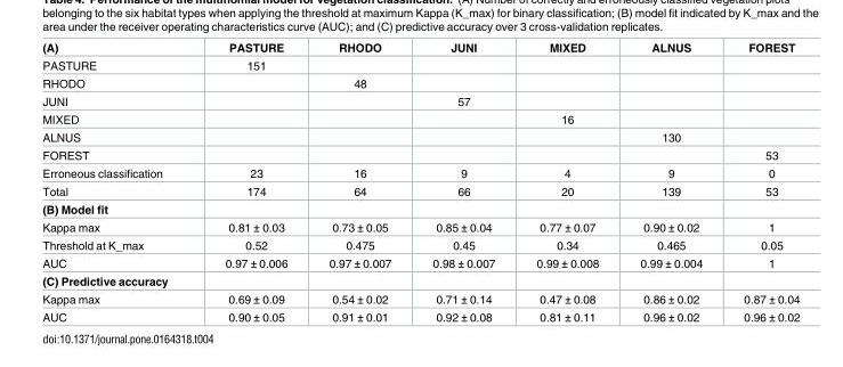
<table><tbody><tr><td>(A)</td><td>PASTURE</td><td>RHODO</td><td>JUNI</td><td>MIXED</td><td>ALNUS</td><td>FOREST</td></tr><tr><td>PASTURE</td><td>151</td><td></td><td></td><td></td><td></td><td></td></tr><tr><td>RHODO</td><td></td><td>48</td><td></td><td></td><td></td><td></td></tr><tr><td>JUNI</td><td></td><td></td><td>57</td><td></td><td></td><td></td></tr><tr><td>MIXED</td><td></td><td></td><td></td><td>16</td><td></td><td></td></tr><tr><td>ALNUS</td><td></td><td></td><td></td><td></td><td>130</td><td></td></tr><tr><td>FOREST</td><td></td><td></td><td></td><td></td><td></td><td>53</td></tr><tr><td>Erroneous classification</td><td>23</td><td>16</td><td>9</td><td>4</td><td>9</td><td>0</td></tr><tr><td>Total</td><td>174</td><td>64</td><td>66</td><td>20</td><td>139</td><td>53</td></tr><tr><td colspan="7">(B) Model fit</td></tr><tr><td>Kappa max</td><td>0.81 ± 0.03</td><td>0.73 ± 0.05</td><td>0.85 ± 0.04</td><td>0.77 ± 0.07</td><td>0.90 ± 0.02</td><td>1</td></tr><tr><td>Threshold at K_max</td><td>0.52</td><td>0.475</td><td>0.45</td><td>0.34</td><td>0.465</td><td>0.05</td></tr><tr><td>AUC</td><td>0.97 ± 0.006</td><td>0.97 ± 0.007</td><td>0.98 ± 0.007</td><td>0.99 ± 0.008</td><td>0.99 ± 0.004</td><td>1</td></tr><tr><td colspan="7">(C) Predictive accuracy</td></tr><tr><td>Kappa max</td><td>0.69 ± 0.09</td><td>0.54 ± 0.02</td><td>0.71 ± 0.14</td><td>0.47 ± 0.08</td><td>0.86 ± 0.02</td><td>0.87 ± 0.04</td></tr><tr><td>AUC</td><td>0.90 ± 0.05</td><td>0.91 ± 0.01</td><td>0.92 ± 0.08</td><td>0.81 ± 0.11</td><td>0.96 ± 0.02</td><td>0.96 ± 0.02</td></tr></tbody></table>